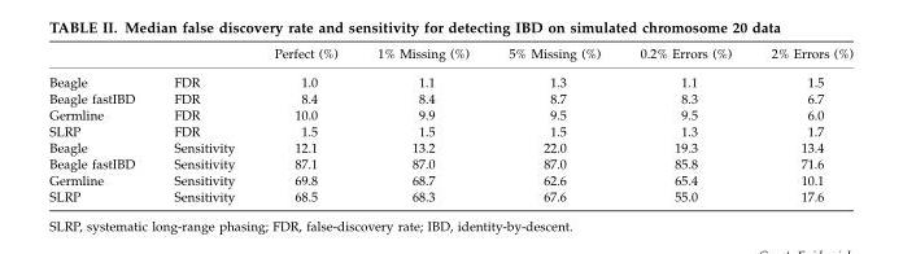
<table><thead><tr><td></td><td></td><td>Perfect (%)</td><td>1% Missing (%)</td><td>5% Missing (%)</td><td>0.2% Errors (%)</td><td>2% Errors (%)</td></tr></thead><tbody><tr><td>Beagle</td><td>FDR</td><td>1.0</td><td>1.1</td><td>1.3</td><td>1.1</td><td>1.5</td></tr><tr><td>Beagle fastIBD</td><td>FDR</td><td>8.4</td><td>8.4</td><td>8.7</td><td>8.3</td><td>6.7</td></tr><tr><td>Germline</td><td>FDR</td><td>10.0</td><td>9.9</td><td>9.5</td><td>9.5</td><td>6.0</td></tr><tr><td>SLRP</td><td>FDR</td><td>1.5</td><td>1.5</td><td>1.5</td><td>1.3</td><td>1.7</td></tr><tr><td>Beagle</td><td>Sensitivity</td><td>12.1</td><td>13.2</td><td>22.0</td><td>19.3</td><td>13.4</td></tr><tr><td>Beagle fastIBD</td><td>Sensitivity</td><td>87.1</td><td>87.0</td><td>87.0</td><td>85.8</td><td>71.6</td></tr><tr><td>Germline</td><td>Sensitivity</td><td>69.8</td><td>68.7</td><td>62.6</td><td>65.4</td><td>10.1</td></tr><tr><td>SLRP</td><td>Sensitivity</td><td>68.5</td><td>68.3</td><td>67.6</td><td>55.0</td><td>17.6</td></tr></tbody></table>